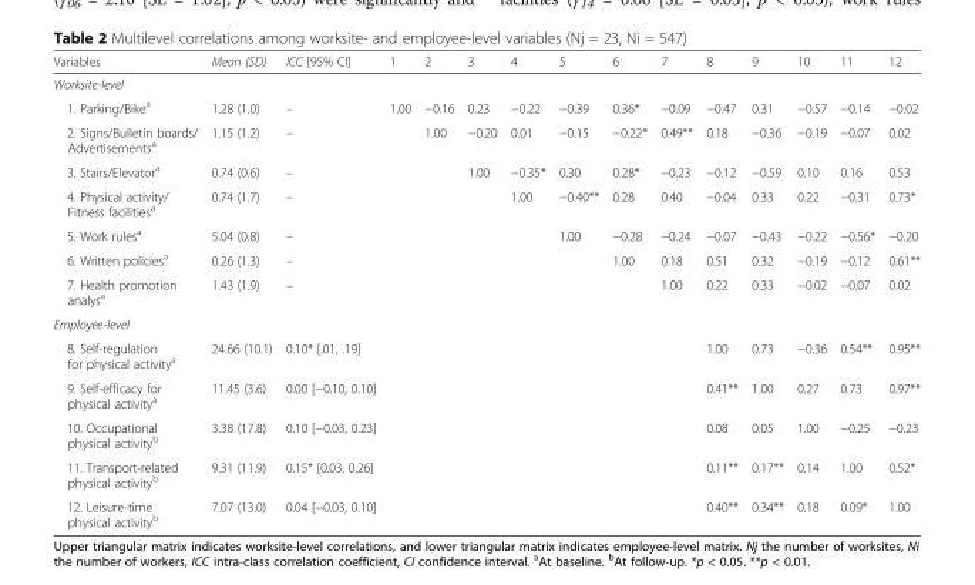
<table><thead><tr><td>Variables</td><td>Mean (SD)</td><td>ICC [95% CI]</td><td>1</td><td>2</td><td>3</td><td>4</td><td>5</td><td>6</td><td>7</td><td>8</td><td>9</td><td>10</td><td>11</td><td>12</td></tr></thead><tbody><tr><td colspan="15">Worksite-level</td></tr><tr><td>1. Parking/Bike<sup>a</sup></td><td>1.28 (1.0)</td><td>–</td><td>1.00</td><td>−0.16</td><td>0.23</td><td>−0.22</td><td>−0.39</td><td>0.36*</td><td>−0.09</td><td>−0.47</td><td>0.31</td><td>−0.57</td><td>−0.14</td><td>−0.02</td></tr><tr><td>2. Signs/Bulletin boards/ Advertisements<sup>a</sup></td><td>1.15 (1.2)</td><td>–</td><td></td><td>1.00</td><td>−0.20</td><td>0.01</td><td>−0.15</td><td>−0.22*</td><td>0.49**</td><td>0.18</td><td>−0.36</td><td>−0.19</td><td>−0.07</td><td>0.02</td></tr><tr><td>3. Stairs/Elevator<sup>a</sup></td><td>0.74 (0.6)</td><td>–</td><td></td><td></td><td>1.00</td><td>−0.35*</td><td>0.30</td><td>0.28*</td><td>−0.23</td><td>−0.12</td><td>−0.59</td><td>0.10</td><td>0.16</td><td>0.53</td></tr><tr><td>4. Physical activity/ Fitness facilities<sup>a</sup></td><td>0.74 (1.7)</td><td>–</td><td></td><td></td><td></td><td>1.00</td><td>−0.40**</td><td>0.28</td><td>0.40</td><td>−0.04</td><td>0.33</td><td>0.22</td><td>−0.31</td><td>0.73*</td></tr><tr><td>5. Work rules<sup>a</sup></td><td>5.04 (0.8)</td><td>–</td><td></td><td></td><td></td><td></td><td>1.00</td><td>−0.28</td><td>−0.24</td><td>−0.07</td><td>−0.43</td><td>−0.22</td><td>−0.56*</td><td>−0.20</td></tr><tr><td>6. Written policies<sup>a</sup></td><td>0.26 (1.3)</td><td>–</td><td></td><td></td><td></td><td></td><td></td><td>1.00</td><td>0.18</td><td>0.51</td><td>0.32</td><td>−0.19</td><td>−0.12</td><td>0.61**</td></tr><tr><td>7. Health promotion analys<sup>a</sup></td><td>1.43 (1.9)</td><td>–</td><td></td><td></td><td></td><td></td><td></td><td></td><td>1.00</td><td>0.22</td><td>0.33</td><td>−0.02</td><td>−0.07</td><td>0.02</td></tr><tr><td colspan="15">Employee-level</td></tr><tr><td>8. Self-regulation for physical activity<sup>a</sup></td><td>24.66 (10.1)</td><td>0.10* [.01, .19]</td><td></td><td></td><td></td><td></td><td></td><td></td><td></td><td>1.00</td><td>0.73</td><td>−0.36</td><td>0.54**</td><td>0.95**</td></tr><tr><td>9. Self-efficacy for physical activity<sup>a</sup></td><td>11.45 (3.6)</td><td>0.00 [−0.10, 0.10]</td><td></td><td></td><td></td><td></td><td></td><td></td><td></td><td>0.41**</td><td>1.00</td><td>0.27</td><td>0.73</td><td>0.97**</td></tr><tr><td>10. Occupational physical activity<sup>b</sup></td><td>3.38 (17.8)</td><td>0.10 [−0.03, 0.23]</td><td></td><td></td><td></td><td></td><td></td><td></td><td></td><td>0.08</td><td>0.05</td><td>1.00</td><td>−0.25</td><td>−0.23</td></tr><tr><td>11. Transport-related physical activity<sup>b</sup></td><td>9.31 (11.9)</td><td>0.15* [0.03, 0.26]</td><td></td><td></td><td></td><td></td><td></td><td></td><td></td><td>0.11**</td><td>0.17**</td><td>0.14</td><td>1.00</td><td>0.52*</td></tr><tr><td>12. Leisure-time physical activity<sup>b</sup></td><td>7.07 (13.0)</td><td>0.04 [−0.03, 0.10]</td><td></td><td></td><td></td><td></td><td></td><td></td><td></td><td>0.40**</td><td>0.34**</td><td>0.18</td><td>0.09*</td><td>1.00</td></tr></tbody></table>